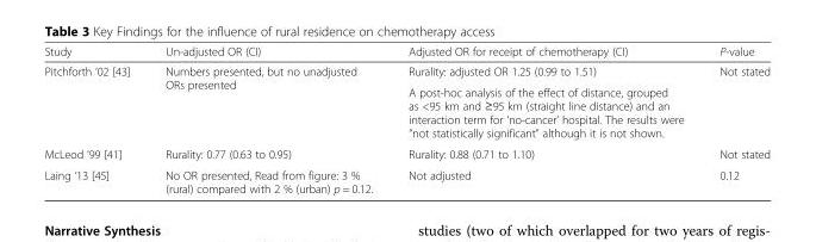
<table><thead><tr><td>Study</td><td>Un-adjusted OR (CI)</td><td>Adjusted OR for receipt of chemotherapy (CI)</td><td>P-value</td></tr></thead><tbody><tr><td rowspan="2">Pitchforth ‘02 [43]</td><td rowspan="2">Numbers presented, but no unadjusted ORs presented</td><td>Rurality: adjusted OR 1.25 (0.99 to 1.51)</td><td rowspan="2">Not stated</td></tr><tr><td>A post-hoc analysis of the effect of distance, grouped as &lt;95 km and ≥95 km (straight line distance) and an interaction term for ‘no-cancer’ hospital. The results were “not statistically significant” although it is not shown.</td></tr><tr><td>McLeod ‘99 [41]</td><td>Rurality: 0.77 (0.63 to 0.95)</td><td>Rurality: 0.88 (0.71 to 1.10)</td><td>Not stated</td></tr><tr><td>Laing ‘13 [45]</td><td>No OR presented, Read from figure: 3 % (rural) compared with 2 % (urban) p = 0.12.</td><td>Not adjusted</td><td>0.12</td></tr></tbody></table>